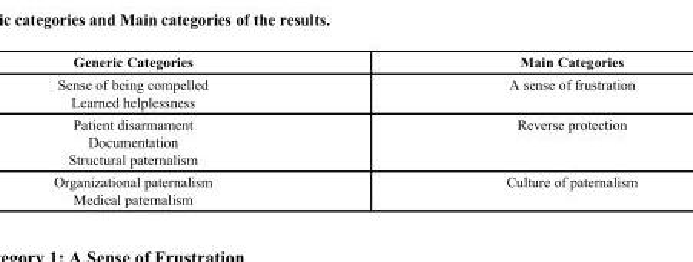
<table><thead><tr><td>Generic Categories</td><td>Main Categories</td></tr></thead><tbody><tr><td>Sense of being compelled Learned helplessness</td><td>A sense of frustration</td></tr><tr><td>Patient disarmament Documentation Structural paternalism</td><td>Reverse protection</td></tr><tr><td>Organizational paternalism Medical paternalism</td><td>Culture of paternalism</td></tr></tbody></table>